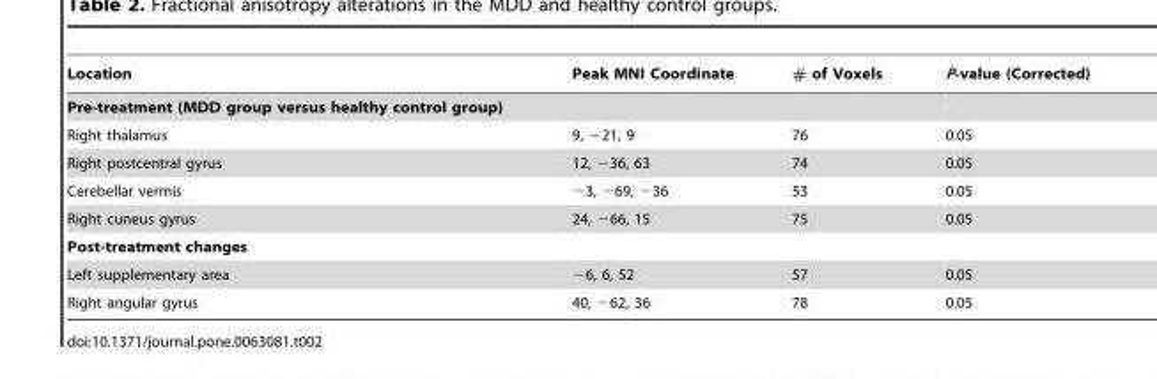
<table><thead><tr><td>Location</td><td>Peak MNI Coordinate</td><td># of Voxels</td><td>P-value (Corrected)</td></tr></thead><tbody><tr><td colspan="4">Pre-treatment (MDD group versus healthy control group)</td></tr><tr><td>Right thalamus</td><td>9, −21, 9</td><td>76</td><td>0.05</td></tr><tr><td>Right postcentral gyrus</td><td>12, −36, 63</td><td>74</td><td>0.05</td></tr><tr><td>Cerebellar vermis</td><td>−3, −69, −36</td><td>53</td><td>0.05</td></tr><tr><td>Right cuneus gyrus</td><td>24, −66, 15</td><td>75</td><td>0.05</td></tr><tr><td colspan="4">Post-treatment changes</td></tr><tr><td>Left supplementary area</td><td>−6, 6, 52</td><td>57</td><td>0.05</td></tr><tr><td>Right angular gyrus</td><td>40, −62, 36</td><td>78</td><td>0.05</td></tr></tbody></table>